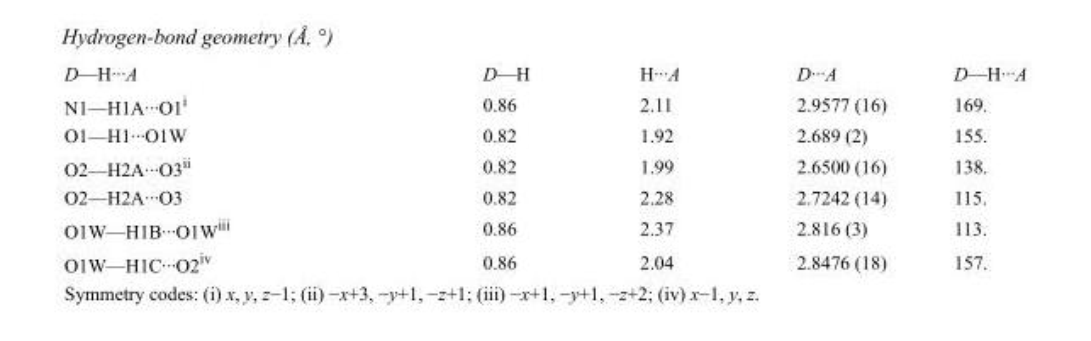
<table><tbody><tr><td>D—H···A</td><td>D—H</td><td>H···A</td><td>D···A</td><td>D—H···A</td></tr><tr><td>N1—H1A···O1<sup>i</sup></td><td>0.86</td><td>2.11</td><td>2.9577 (16)</td><td>169.</td></tr><tr><td>O1—H1···O1W</td><td>0.82</td><td>1.92</td><td>2.689 (2)</td><td>155.</td></tr><tr><td>O2—H2A···O3<sup>ii</sup></td><td>0.82</td><td>1.99</td><td>2.6500 (16)</td><td>138.</td></tr><tr><td>O2—H2A···O3</td><td>0.82</td><td>2.28</td><td>2.7242 (14)</td><td>115.</td></tr><tr><td>O1W—H1B···O1W<sup>iii</sup></td><td>0.86</td><td>2.37</td><td>2.816 (3)</td><td>113.</td></tr><tr><td>O1W—H1C···O2<sup>iv</sup></td><td>0.86</td><td>2.04</td><td>2.8476 (18)</td><td>157.</td></tr></tbody></table>